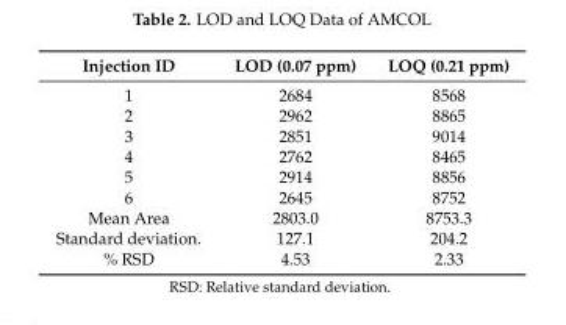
<table><thead><tr><td>Injection ID</td><td>LOD (0.07 ppm)</td><td>LOQ (0.21 ppm)</td></tr></thead><tbody><tr><td>1</td><td>2684</td><td>8568</td></tr><tr><td>2</td><td>2962</td><td>8865</td></tr><tr><td>3</td><td>2851</td><td>9014</td></tr><tr><td>4</td><td>2762</td><td>8465</td></tr><tr><td>5</td><td>2914</td><td>8856</td></tr><tr><td>6</td><td>2645</td><td>8752</td></tr><tr><td>Mean Area</td><td>2803.0</td><td>8753.3</td></tr><tr><td>Standard deviation.</td><td>127.1</td><td>204.2</td></tr><tr><td>% RSD</td><td>4.53</td><td>2.33</td></tr></tbody></table>